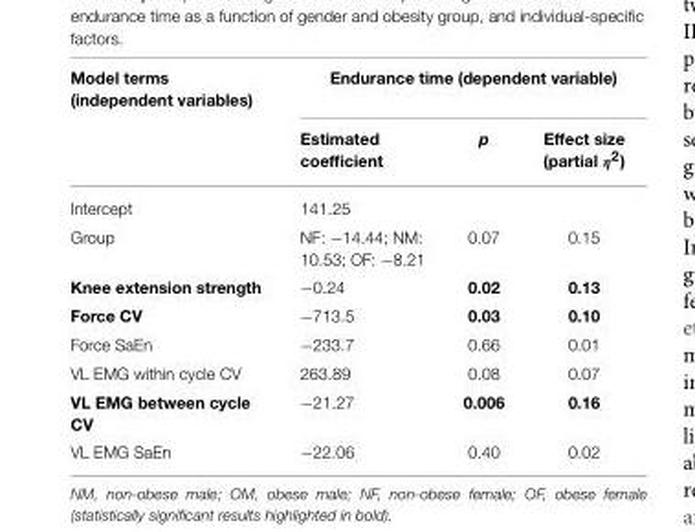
<table><thead><tr><td rowspan="2">Model terms (independent variables)</td><td colspan="3">Endurance time (dependent variable)</td></tr><tr><td>Estimated coefficient</td><td>p</td><td>Effect size (partial η<sup>2</sup>)</td></tr></thead><tbody><tr><td>Intercept</td><td>141.25</td><td></td><td></td></tr><tr><td>Group</td><td>NF: −14.44; NM: 10.53; OF: −8.21</td><td>0.07</td><td>0.15</td></tr><tr><td>Knee extension strength</td><td>−0.24</td><td>0.02</td><td>0.13</td></tr><tr><td>Force CV</td><td>−713.5</td><td>0.03</td><td>0.10</td></tr><tr><td>Force SaEn</td><td>−233.7</td><td>0.66</td><td>0.01</td></tr><tr><td>VL EMG within cycle CV</td><td>263.89</td><td>0.08</td><td>0.07</td></tr><tr><td>VL EMG between cycle CV</td><td>−21.27</td><td>0.006</td><td>0.16</td></tr><tr><td>VL EMG SaEn</td><td>−22.06</td><td>0.40</td><td>0.02</td></tr></tbody></table>